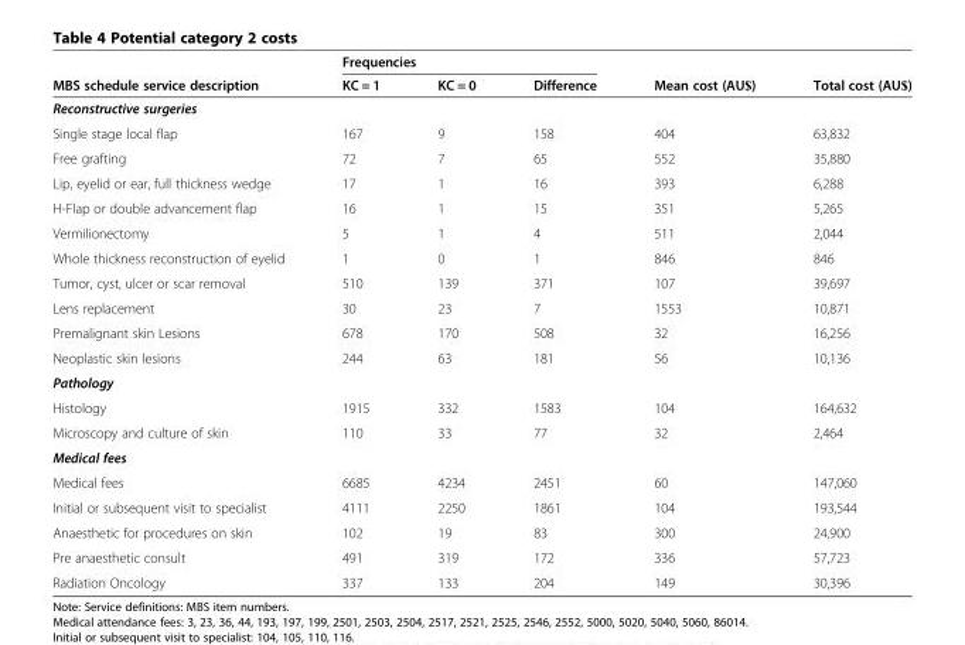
<table><thead><tr><td rowspan="2">MBS schedule service description</td><td colspan="3">Frequencies</td><td rowspan="2">Mean cost (AU$)</td><td rowspan="2">Total cost (AU$)</td></tr><tr><td>KC = 1</td><td>KC = 0</td><td>Difference</td></tr></thead><tbody><tr><td colspan="6">Reconstructive surgeries</td></tr><tr><td>Single stage local flap</td><td>167</td><td>9</td><td>158</td><td>404</td><td>63,832</td></tr><tr><td>Free grafting</td><td>72</td><td>7</td><td>65</td><td>552</td><td>35,880</td></tr><tr><td>Lip, eyelid or ear, full thickness wedge</td><td>17</td><td>1</td><td>16</td><td>393</td><td>6,288</td></tr><tr><td>H-Flap or double advancement flap</td><td>16</td><td>1</td><td>15</td><td>351</td><td>5,265</td></tr><tr><td>Vermilionectomy</td><td>5</td><td>1</td><td>4</td><td>511</td><td>2,044</td></tr><tr><td>Whole thickness reconstruction of eyelid</td><td>1</td><td>0</td><td>1</td><td>846</td><td>846</td></tr><tr><td>Tumor, cyst, ulcer or scar removal</td><td>510</td><td>139</td><td>371</td><td>107</td><td>39,697</td></tr><tr><td>Lens replacement</td><td>30</td><td>23</td><td>7</td><td>1553</td><td>10,871</td></tr><tr><td>Premalignant skin Lesions</td><td>678</td><td>170</td><td>508</td><td>32</td><td>16,256</td></tr><tr><td>Neoplastic skin lesions</td><td>244</td><td>63</td><td>181</td><td>56</td><td>10,136</td></tr><tr><td colspan="6">Pathology</td></tr><tr><td>Histology</td><td>1915</td><td>332</td><td>1583</td><td>104</td><td>164,632</td></tr><tr><td>Microscopy and culture of skin</td><td>110</td><td>33</td><td>77</td><td>32</td><td>2,464</td></tr><tr><td colspan="6">Medical fees</td></tr><tr><td>Medical fees</td><td>6685</td><td>4234</td><td>2451</td><td>60</td><td>147,060</td></tr><tr><td>Initial or subsequent visit to specialist</td><td>4111</td><td>2250</td><td>1861</td><td>104</td><td>193,544</td></tr><tr><td>Anaesthetic for procedures on skin</td><td>102</td><td>19</td><td>83</td><td>300</td><td>24,900</td></tr><tr><td>Pre anaesthetic consult</td><td>491</td><td>319</td><td>172</td><td>336</td><td>57,723</td></tr><tr><td>Radiation Oncology</td><td>337</td><td>133</td><td>204</td><td>149</td><td>30,396</td></tr></tbody></table>